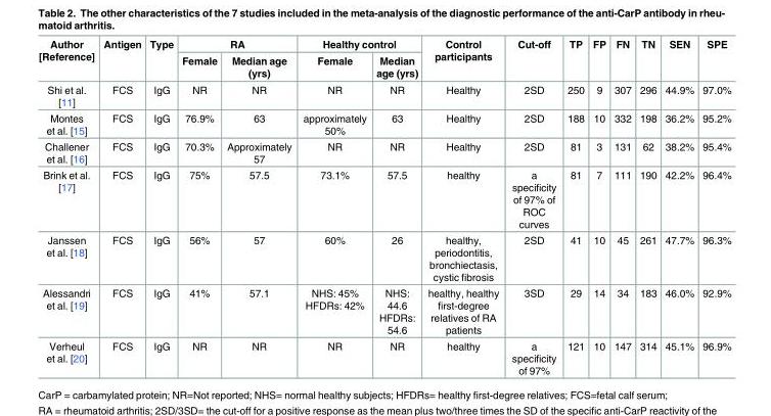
<table><thead><tr><td rowspan="2">Author [Reference]</td><td rowspan="2">Antigen</td><td rowspan="2">Type</td><td colspan="2">RA</td><td colspan="2">Healthy control</td><td rowspan="2">Control participants</td><td rowspan="2">Cut-off</td><td rowspan="2">TP</td><td rowspan="2">FP</td><td rowspan="2">FN</td><td rowspan="2">TN</td><td rowspan="2">SEN</td><td rowspan="2">SPE</td></tr><tr><td>Female</td><td>Median age (yrs)</td><td>Female</td><td>Median age (yrs)</td></tr></thead><tbody><tr><td>Shi et al. [11]</td><td>FCS</td><td>IgG</td><td>NR</td><td>NR</td><td>NR</td><td>NR</td><td>Healthy</td><td>2SD</td><td>250</td><td>9</td><td>307</td><td>296</td><td>44.9%</td><td>97.0%</td></tr><tr><td>Montes et al. [15]</td><td>FCS</td><td>IgG</td><td>76.9%</td><td>63</td><td>approximately 50%</td><td>63</td><td>Healthy</td><td>2SD</td><td>188</td><td>10</td><td>332</td><td>198</td><td>36.2%</td><td>95.2%</td></tr><tr><td>Challener et al. [16]</td><td>FCS</td><td>IgG</td><td>70.3%</td><td>Approximately 57</td><td>NR</td><td>NR</td><td>Healthy</td><td>2SD</td><td>81</td><td>3</td><td>131</td><td>62</td><td>38.2%</td><td>95.4%</td></tr><tr><td>Brink et al. [17]</td><td>FCS</td><td>IgG</td><td>75%</td><td>57.5</td><td>73.1%</td><td>57.5</td><td>healthy</td><td>a specificity of 97% of ROC curves</td><td>81</td><td>7</td><td>111</td><td>190</td><td>42.2%</td><td>96.4%</td></tr><tr><td>Janssen et al. [18]</td><td>FCS</td><td>IgG</td><td>56%</td><td>57</td><td>60%</td><td>26</td><td>healthy, periodontitis, bronchiectasis, cystic fibrosis</td><td>2SD</td><td>41</td><td>10</td><td>45</td><td>261</td><td>47.7%</td><td>96.3%</td></tr><tr><td>Alessandri et al. [19]</td><td>FCS</td><td>IgG</td><td>41%</td><td>57.1</td><td>NHS: 45% HFDRs: 42%</td><td>NHS: 44.6 HFDRs: 54.6</td><td>healthy, healthy first-degree relatives of RA patients</td><td>3SD</td><td>29</td><td>14</td><td>34</td><td>183</td><td>46.0%</td><td>92.9%</td></tr><tr><td>Verheul et al. [20]</td><td>FCS</td><td>IgG</td><td>NR</td><td>NR</td><td>NR</td><td>NR</td><td>healthy</td><td>a specificity of 97%</td><td>121</td><td>10</td><td>147</td><td>314</td><td>45.1%</td><td>96.9%</td></tr></tbody></table>